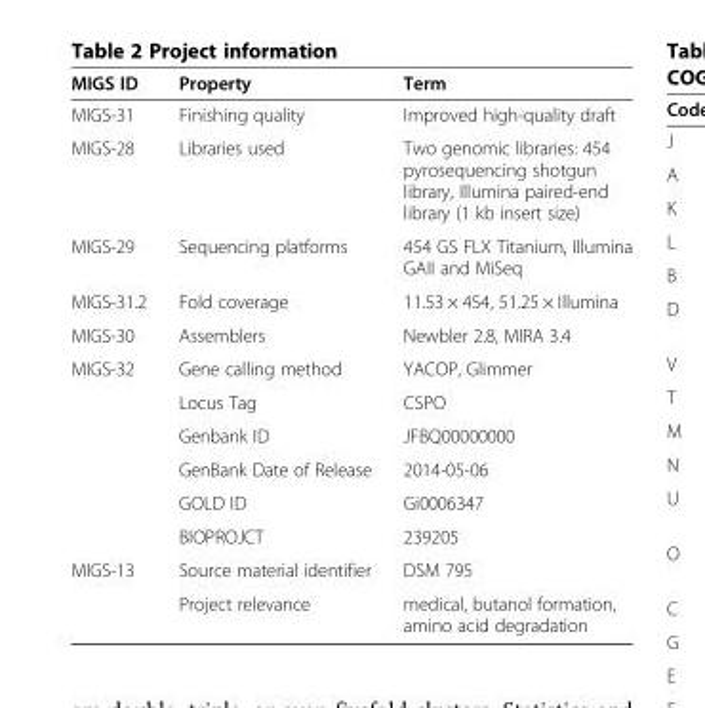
<table><thead><tr><td>MIGS ID</td><td>Property</td><td>Term</td></tr></thead><tbody><tr><td>MIGS-31</td><td>Finishing quality</td><td>Improved high-quality draft</td></tr><tr><td>MIGS-28</td><td>Libraries used</td><td>Two genomic libraries: 454 pyrosequencing shotgun library, Illumina paired-end library (1 kb insert size)</td></tr><tr><td>MIGS-29</td><td>Sequencing platforms</td><td>454 GS FLX Titanium, Illumina GAII and MiSeq</td></tr><tr><td>MIGS-31.2</td><td>Fold coverage</td><td>11.53 × 454, 51.25 × Illumina</td></tr><tr><td>MIGS-30</td><td>Assemblers</td><td>Newbler 2.8, MIRA 3.4</td></tr><tr><td rowspan="6">MIGS-32</td><td>Gene calling method</td><td>YACOP, Glimmer</td></tr><tr><td>Locus Tag</td><td>CSPO</td></tr><tr><td>Genbank ID</td><td>JFBQ00000000</td></tr><tr><td>GenBank Date of Release</td><td>2014-05-06</td></tr><tr><td>GOLD ID</td><td>Gi0006347</td></tr><tr><td>BIOPROJCT</td><td>239205</td></tr><tr><td rowspan="2">MIGS-13</td><td>Source material identifier</td><td>DSM 795</td></tr><tr><td>Project relevance</td><td>medical, butanol formation, amino acid degradation</td></tr></tbody></table>